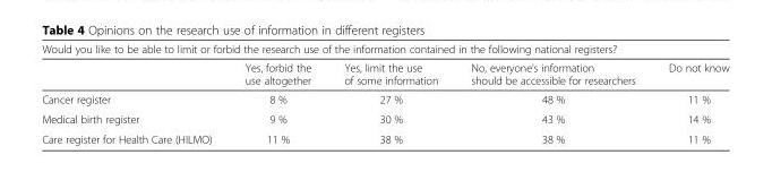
<table><thead><tr><td colspan="5">Would you like to be able to limit or forbid the research use of the information contained in the following national registers?</td></tr><tr><td></td><td>Yes, forbid the use altogether</td><td>Yes, limit the use of some information</td><td>No, everyone’s information should be accessible for researchers</td><td>Do not know</td></tr></thead><tbody><tr><td>Cancer register</td><td>8 %</td><td>27 %</td><td>48 %</td><td>11 %</td></tr><tr><td>Medical birth register</td><td>9 %</td><td>30 %</td><td>43 %</td><td>14 %</td></tr><tr><td>Care register for Health Care (HILMO)</td><td>11 %</td><td>38 %</td><td>38 %</td><td>11 %</td></tr></tbody></table>